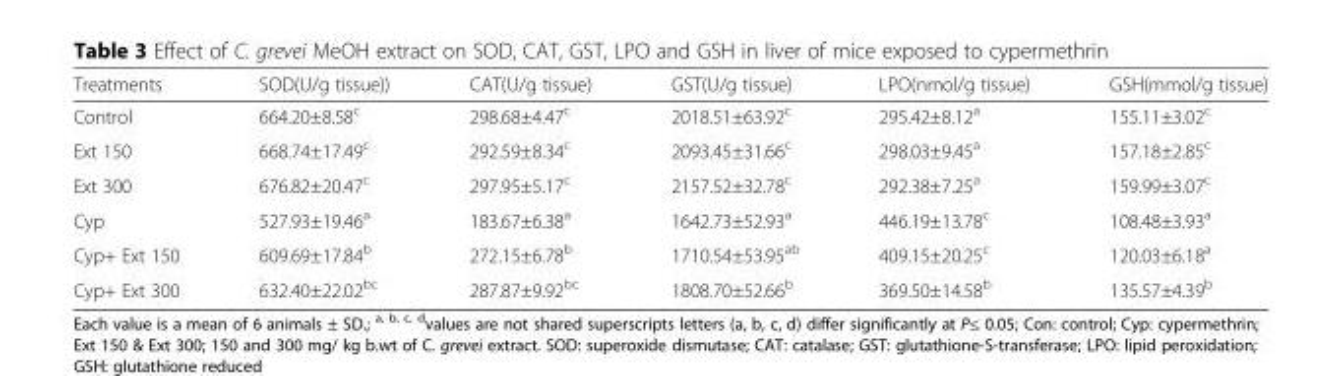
<table><thead><tr><td>Treatments</td><td>SOD(U/g tissue))</td><td>CAT(U/g tissue)</td><td>GST(U/g tissue)</td><td>LPO(nmol/g tissue)</td><td>GSH(mmol/g tissue)</td></tr></thead><tbody><tr><td>Control</td><td>664.20±8.58<sup>c</sup></td><td>298.68±4.47<sup>c</sup></td><td>2018.51±63.92<sup>c</sup></td><td>295.42±8.12<sup>a</sup></td><td>155.11±3.02<sup>c</sup></td></tr><tr><td>Ext 150</td><td>668.74±17.49<sup>c</sup></td><td>292.59±8.34<sup>c</sup></td><td>2093.45±31.66<sup>c</sup></td><td>298.03±9.45<sup>a</sup></td><td>157.18±2.85<sup>c</sup></td></tr><tr><td>Ext 300</td><td>676.82±20.47<sup>c</sup></td><td>297.95±5.17<sup>c</sup></td><td>2157.52±32.78<sup>c</sup></td><td>292.38±7.25<sup>a</sup></td><td>159.99±3.07<sup>c</sup></td></tr><tr><td>Cyp</td><td>527.93±19.46<sup>a</sup></td><td>183.67±6.38<sup>a</sup></td><td>1642.73±52.93<sup>a</sup></td><td>446.19±13.78<sup>c</sup></td><td>108.48±3.93<sup>a</sup></td></tr><tr><td>Cyp+ Ext 150</td><td>609.69±17.84<sup>b</sup></td><td>272.15±6.78<sup>b</sup></td><td>1710.54±53.95<sup>ab</sup></td><td>409.15±20.25<sup>c</sup></td><td>120.03±6.18<sup>a</sup></td></tr><tr><td>Cyp+ Ext 300</td><td>632.40±22.02<sup>bc</sup></td><td>287.87±9.92<sup>bc</sup></td><td>1808.70±52.66<sup>b</sup></td><td>369.50±14.58<sup>b</sup></td><td>135.57±4.39<sup>b</sup></td></tr></tbody></table>